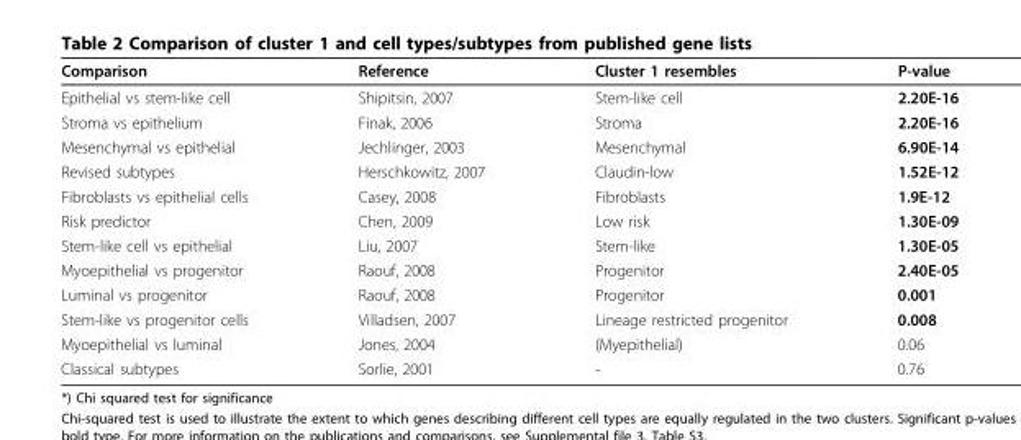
<table><thead><tr><td>Comparison</td><td>Reference</td><td>Cluster 1 resembles</td><td>P-value</td></tr></thead><tbody><tr><td>Epithelial vs stem-like cell</td><td>Shipitsin, 2007</td><td>Stem-like cell</td><td>2.20E-16</td></tr><tr><td>Stroma vs epithelium</td><td>Finak, 2006</td><td>Stroma</td><td>2.20E-16</td></tr><tr><td>Mesenchymal vs epithelial</td><td>Jechlinger, 2003</td><td>Mesenchymal</td><td>6.90E-14</td></tr><tr><td>Revised subtypes</td><td>Herschkowitz, 2007</td><td>Claudin-low</td><td>1.52E-12</td></tr><tr><td>Fibroblasts vs epithelial cells</td><td>Casey, 2008</td><td>Fibroblasts</td><td>1.9E-12</td></tr><tr><td>Risk predictor</td><td>Chen, 2009</td><td>Low risk</td><td>1.30E-09</td></tr><tr><td>Stem-like cell vs epithelial</td><td>Liu, 2007</td><td>Stem-like</td><td>1.30E-05</td></tr><tr><td>Myoepithelial vs progenitor</td><td>Raouf, 2008</td><td>Progenitor</td><td>2.40E-05</td></tr><tr><td>Luminal vs progenitor</td><td>Raouf, 2008</td><td>Progenitor</td><td>0.001</td></tr><tr><td>Stem-like vs progenitor cells</td><td>Villadsen, 2007</td><td>Lineage restricted progenitor</td><td>0.008</td></tr><tr><td>Myoepithelial vs luminal</td><td>Jones, 2004</td><td>(Myepithelial)</td><td>0.06</td></tr><tr><td>Classical subtypes</td><td>Sorlie, 2001</td><td>-</td><td>0.76</td></tr></tbody></table>